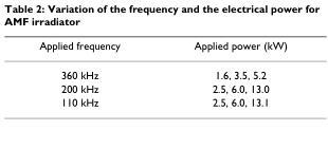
<table><thead><tr><td>Applied frequency</td><td>Applied power (kW)</td></tr></thead><tbody><tr><td>360 kHz</td><td>1.6, 3.5, 5.2</td></tr><tr><td>200 kHz</td><td>2.5, 6.0, 13.0</td></tr><tr><td>110 kHz</td><td>2.5, 6.0, 13.1</td></tr></tbody></table>